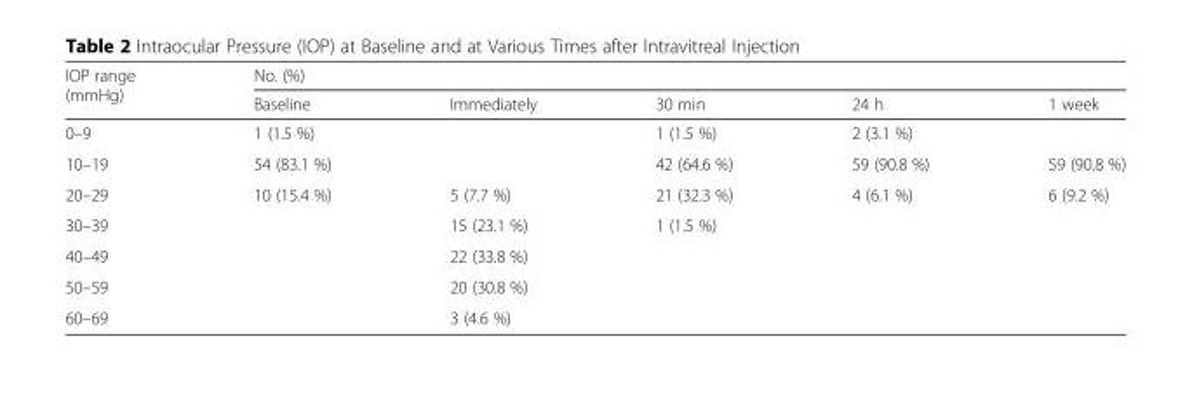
<table><thead><tr><td rowspan="2">IOP range (mmHg)</td><td colspan="5">No. (%)</td></tr><tr><td>Baseline</td><td>Immediately</td><td>30 min</td><td>24 h</td><td>1 week</td></tr></thead><tbody><tr><td>0–9</td><td>1 (1.5 %)</td><td></td><td>1 (1.5 %)</td><td>2 (3.1 %)</td><td></td></tr><tr><td>10–19</td><td>54 (83.1 %)</td><td></td><td>42 (64.6 %)</td><td>59 (90.8 %)</td><td>59 (90.8 %)</td></tr><tr><td>20–29</td><td>10 (15.4 %)</td><td>5 (7.7 %)</td><td>21 (32.3 %)</td><td>4 (6.1 %)</td><td>6 (9.2 %)</td></tr><tr><td>30–39</td><td></td><td>15 (23.1 %)</td><td>1 (1.5 %)</td><td></td><td></td></tr><tr><td>40–49</td><td></td><td>22 (33.8 %)</td><td></td><td></td><td></td></tr><tr><td>50–59</td><td></td><td>20 (30.8 %)</td><td></td><td></td><td></td></tr><tr><td>60–69</td><td></td><td>3 (4.6 %)</td><td></td><td></td><td></td></tr></tbody></table>